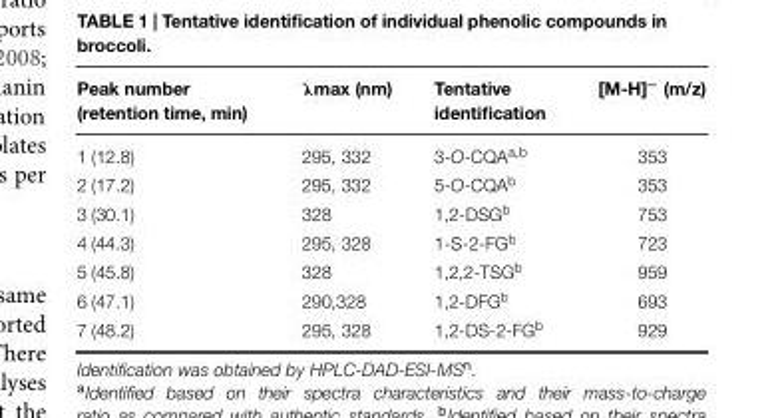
<table><thead><tr><td>Peak number (retention time, min)</td><td>λmax (nm)</td><td>Tentative identification</td><td>[M-H]<sup>−</sup> (m/z)</td></tr></thead><tbody><tr><td>1 (12.8)</td><td>295, 332</td><td>3-O-CQA<sup>a,b</sup></td><td>353</td></tr><tr><td>2 (17.2)</td><td>295, 332</td><td>5-O-CQA<sup>b</sup></td><td>353</td></tr><tr><td>3 (30.1)</td><td>328</td><td>1,2-DSG<sup>b</sup></td><td>753</td></tr><tr><td>4 (44.3)</td><td>295, 328</td><td>1-S-2-FG<sup>b</sup></td><td>723</td></tr><tr><td>5 (45.8)</td><td>328</td><td>1,2,2-TSG<sup>b</sup></td><td>959</td></tr><tr><td>6 (47.1)</td><td>290,328</td><td>1,2-DFG<sup>b</sup></td><td>693</td></tr><tr><td>7 (48.2)</td><td>295, 328</td><td>1,2-DS-2-FG<sup>b</sup></td><td>929</td></tr></tbody></table>